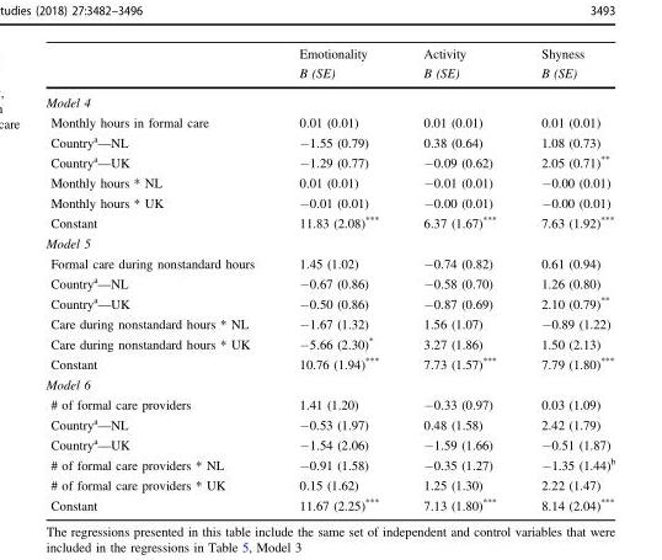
<table><thead><tr><td rowspan="2"></td><td rowspan="2">Emotionality B (SE)</td><td rowspan="2">Activity B (SE)</td><td rowspan="2">Shyness B (SE)</td></tr><tr></tr></thead><tbody><tr><td colspan="4">Model 4</td></tr><tr><td>Monthly hours in formal care</td><td>0.01 (0.01)</td><td>0.01 (0.01)</td><td>0.01 (0.01)</td></tr><tr><td>Country<sup>a</sup>—NL</td><td>−1.55 (0.79)</td><td>0.38 (0.64)</td><td>1.08 (0.73)</td></tr><tr><td>Country<sup>a</sup>—UK</td><td>−1.29 (0.77)</td><td>−0.09 (0.62)</td><td>2.05 (0.71)**</td></tr><tr><td>Monthly hours * NL</td><td>0.01 (0.01)</td><td>−0.01 (0.01)</td><td>−0.00 (0.01)</td></tr><tr><td>Monthly hours * UK</td><td>−0.01 (0.01)</td><td>−0.00 (0.01)</td><td>−0.00 (0.01)</td></tr><tr><td>Constant</td><td>11.83 (2.08)***</td><td>6.37 (1.67)***</td><td>7.63 (1.92)***</td></tr><tr><td colspan="4">Model 5</td></tr><tr><td>Formal care during nonstandard hours</td><td>1.45 (1.02)</td><td>−0.74 (0.82)</td><td>0.61 (0.94)</td></tr><tr><td>Country<sup>a</sup>—NL</td><td>−0.67 (0.86)</td><td>−0.58 (0.70)</td><td>1.26 (0.80)</td></tr><tr><td>Country<sup>a</sup>—UK</td><td>−0.50 (0.86)</td><td>−0.87 (0.69)</td><td>2.10 (0.79)**</td></tr><tr><td>Care during nonstandard hours * NL</td><td>−1.67 (1.32)</td><td>1.56 (1.07)</td><td>−0.89 (1.22)</td></tr><tr><td>Care during nonstandard hours * UK</td><td>−5.66 (2.30)*</td><td>3.27 (1.86)</td><td>1.50 (2.13)</td></tr><tr><td>Constant</td><td>10.76 (1.94)***</td><td>7.73 (1.57)***</td><td>7.79 (1.80)***</td></tr><tr><td colspan="4">Model 6</td></tr><tr><td># of formal care providers</td><td>1.41 (1.20)</td><td>−0.33 (0.97)</td><td>0.03 (1.09)</td></tr><tr><td>Country<sup>a</sup>—NL</td><td>−0.53 (1.97)</td><td>0.48 (1.58)</td><td>2.42 (1.79)</td></tr><tr><td>Country<sup>a</sup>—UK</td><td>−1.54 (2.06)</td><td>−1.59 (1.66)</td><td>−0.51 (1.87)</td></tr><tr><td># of formal care providers * NL</td><td>−0.91 (1.58)</td><td>−0.35 (1.27)</td><td>−1.35 (1.44)<sup>b</sup></td></tr><tr><td># of formal care providers * UK</td><td>0.15 (1.62)</td><td>1.25 (1.30)</td><td>2.22 (1.47)</td></tr><tr><td>Constant</td><td>11.67 (2.25)***</td><td>7.13 (1.80)***</td><td>8.14 (2.04)***</td></tr></tbody></table>